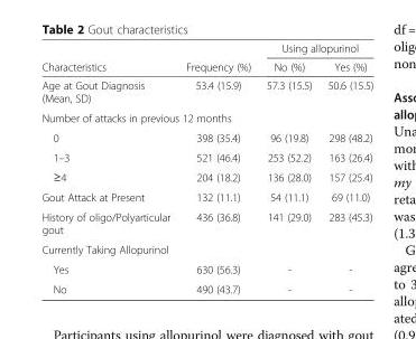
<table><thead><tr><td rowspan="2">Characteristics</td><td rowspan="2">Frequency (%)</td><td colspan="2">Using allopurinol</td></tr><tr><td>No (%)</td><td>Yes (%)</td></tr></thead><tbody><tr><td>Age at Gout Diagnosis (Mean, SD)</td><td>53.4 (15.9)</td><td>57.3 (15.5)</td><td>50.6 (15.5)</td></tr><tr><td colspan="4">Number of attacks in previous 12 months</td></tr><tr><td>0</td><td>398 (35.4)</td><td>96 (19.8)</td><td>298 (48.2)</td></tr><tr><td>1–3</td><td>521 (46.4)</td><td>253 (52.2)</td><td>163 (26.4)</td></tr><tr><td>≥4</td><td>204 (18.2)</td><td>136 (28.0)</td><td>157 (25.4)</td></tr><tr><td>Gout Attack at Present</td><td>132 (11.1)</td><td>54 (11.1)</td><td>69 (11.0)</td></tr><tr><td>History of oligo/Polyarticular gout</td><td>436 (36.8)</td><td>141 (29.0)</td><td>283 (45.3)</td></tr><tr><td colspan="4">Currently Taking Allopurinol</td></tr><tr><td>Yes</td><td>630 (56.3)</td><td>-</td><td>-</td></tr><tr><td>No</td><td>490 (43.7)</td><td>-</td><td>-</td></tr></tbody></table>